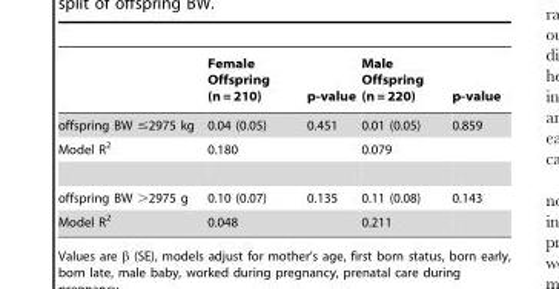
<table><thead><tr><td></td><td>Female Offspring (n = 210)</td><td>p-value</td><td>Male Offspring (n = 220)</td><td>p-value</td></tr></thead><tbody><tr><td>offspring BW ≤2975 kg</td><td>0.04 (0.05)</td><td>0.451</td><td>0.01 (0.05)</td><td>0.859</td></tr><tr><td>Model R<sup>2</sup></td><td>0.180</td><td></td><td>0.079</td><td></td></tr><tr><td>offspring BW &gt;2975 g</td><td>0.10 (0.07)</td><td>0.135</td><td>0.11 (0.08)</td><td>0.143</td></tr><tr><td>Model R<sup>2</sup></td><td>0.048</td><td></td><td>0.211</td><td></td></tr></tbody></table>